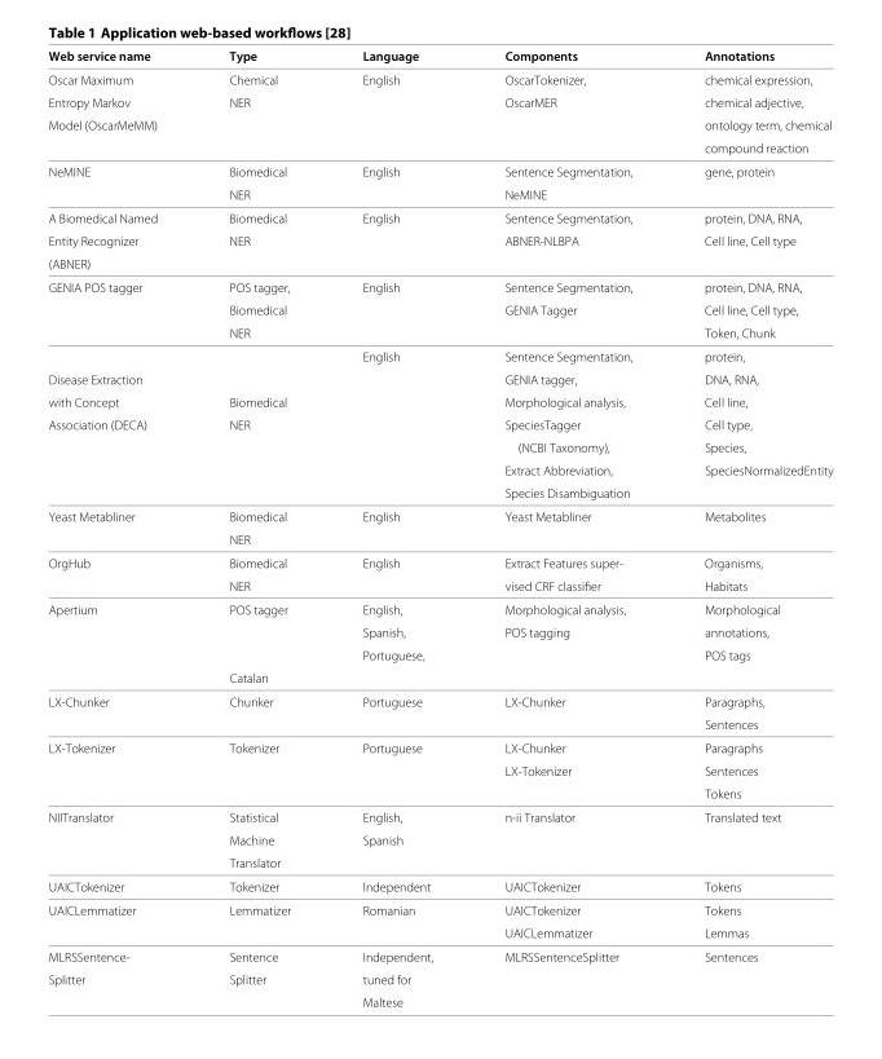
<table><thead><tr><td>Web service name</td><td>Type</td><td>Language</td><td>Components</td><td>Annotations</td></tr></thead><tbody><tr><td>Oscar Maximum</td><td>Chemical</td><td>English</td><td>OscarTokenizer,</td><td>chemical expression,</td></tr><tr><td>Entropy Markov</td><td>NER</td><td></td><td>OscarMER</td><td>chemical adjective,</td></tr><tr><td rowspan="2">Model (OscarMeMM)</td><td></td><td></td><td></td><td>ontology term, chemical</td></tr><tr><td></td><td></td><td></td><td>compound reaction</td></tr><tr><td rowspan="2">NeMINE</td><td>Biomedical</td><td>English</td><td>Sentence Segmentation,</td><td>gene, protein</td></tr><tr><td>NER</td><td></td><td>NeMINE</td><td></td></tr><tr><td>A Biomedical Named</td><td>Biomedical</td><td>English</td><td>Sentence Segmentation,</td><td>protein, DNA, RNA,</td></tr><tr><td>Entity Recognizer</td><td>NER</td><td></td><td>ABNER-NLBPA</td><td>Cell line, Cell type</td></tr><tr><td colspan="5">(ABNER)</td></tr><tr><td rowspan="4">GENIA POS tagger</td><td>POS tagger,</td><td>English</td><td>Sentence Segmentation,</td><td>protein, DNA, RNA,</td></tr><tr><td>Biomedical</td><td></td><td>GENIA Tagger</td><td>Cell line, Cell type,</td></tr><tr><td>NER</td><td></td><td></td><td>Token, Chunk</td></tr><tr><td></td><td>English</td><td>Sentence Segmentation,</td><td>protein,</td></tr><tr><td>Disease Extraction</td><td></td><td></td><td>GENIA tagger,</td><td>DNA, RNA,</td></tr><tr><td>with Concept</td><td>Biomedical</td><td></td><td>Morphological analysis,</td><td>Cell line,</td></tr><tr><td rowspan="4">Association (DECA)</td><td>NER</td><td></td><td>SpeciesTagger</td><td>Cell type,</td></tr><tr><td></td><td></td><td>(NCBI Taxonomy),</td><td>Species,</td></tr><tr><td></td><td></td><td>Extract Abbreviation,</td><td>SpeciesNormalizedEntity</td></tr><tr><td></td><td></td><td>Species Disambiguation</td><td></td></tr><tr><td rowspan="2">Yeast Metabliner</td><td>Biomedical</td><td>English</td><td>Yeast Metabliner</td><td>Metabolites</td></tr><tr><td>NER</td><td></td><td></td><td></td></tr><tr><td rowspan="2">OrgHub</td><td>Biomedical</td><td>English</td><td>Extract Features super-</td><td>Organisms,</td></tr><tr><td>NER</td><td></td><td>vised CRF classifier</td><td>Habitats</td></tr><tr><td rowspan="4">Apertium</td><td>POS tagger</td><td>English,</td><td>Morphological analysis,</td><td>Morphological</td></tr><tr><td></td><td>Spanish,</td><td>POS tagging</td><td>annotations,</td></tr><tr><td></td><td>Portuguese,</td><td></td><td>POS tags</td></tr><tr><td>Catalan</td><td></td><td></td><td></td></tr><tr><td rowspan="2">LX-Chunker</td><td>Chunker</td><td>Portuguese</td><td>LX-Chunker</td><td>Paragraphs,</td></tr><tr><td></td><td></td><td></td><td>Sentences</td></tr><tr><td rowspan="3">LX-Tokenizer</td><td>Tokenizer</td><td>Portuguese</td><td>LX-Chunker</td><td>Paragraphs</td></tr><tr><td></td><td></td><td>LX-Tokenizer</td><td>Sentences</td></tr><tr><td></td><td></td><td></td><td>Tokens</td></tr><tr><td rowspan="3">NIITranslator</td><td>Statistical</td><td>English,</td><td>n-ii Translator</td><td>Translated text</td></tr><tr><td>Machine</td><td>Spanish</td><td></td><td></td></tr><tr><td>Translator</td><td></td><td></td><td></td></tr><tr><td>UAICTokenizer</td><td>Tokenizer</td><td>Independent</td><td>UAICTokenizer</td><td>Tokens</td></tr><tr><td rowspan="2">UAICLemmatizer</td><td>Lemmatizer</td><td>Romanian</td><td>UAICTokenizer</td><td>Tokens</td></tr><tr><td></td><td></td><td>UAICLemmatizer</td><td>Lemmas</td></tr><tr><td>MLRSSentence-</td><td>Sentence</td><td>Independent,</td><td>MLRSSentenceSplitter</td><td>Sentences</td></tr><tr><td rowspan="2">Splitter</td><td>Splitter</td><td>tuned for</td><td></td><td></td></tr><tr><td></td><td>Maltese</td><td></td><td></td></tr></tbody></table>